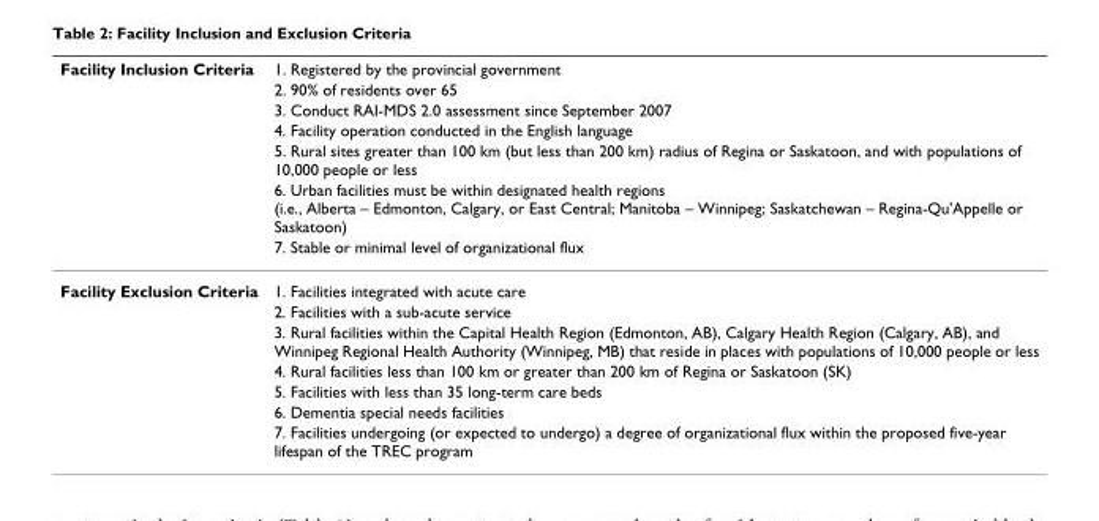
<table><thead><tr><td rowspan="7">Facility Inclusion Criteria</td><td rowspan="7">1. Registered by the provincial government 2. 90% of residents over 65 3. Conduct RAI-MDS 2.0 assessment since September 2007 4. Facility operation conducted in the English language 5. Rural sites greater than 100 km (but less than 200 km) radius of Regina or Saskatoon, and with populations of 10,000 people or less 6. Urban facilities must be within designated health regions (i.e., Alberta – Edmonton, Calgary, or East Central; Manitoba – Winnipeg; Saskatchewan – Regina-Qu&#x27;Appelle or Saskatoon) 7. Stable or minimal level of organizational flux</td></tr><tr></tr><tr></tr><tr></tr><tr></tr><tr></tr><tr></tr></thead><tbody><tr><td rowspan="7">Facility Exclusion Criteria</td><td>1. Facilities integrated with acute care</td></tr><tr><td>2. Facilities with a sub-acute service</td></tr><tr><td>3. Rural facilities within the Capital Health Region (Edmonton, AB), Calgary Health Region (Calgary, AB), and Winnipeg Regional Health Authority (Winnipeg, MB) that reside in places with populations of 10,000 people or less</td></tr><tr><td>4. Rural facilities less than 100 km or greater than 200 km of Regina or Saskatoon (SK)</td></tr><tr><td>5. Facilities with less than 35 long-term care beds</td></tr><tr><td>6. Dementia special needs facilities</td></tr><tr><td>7. Facilities undergoing (or expected to undergo) a degree of organizational flux within the proposed five-year lifespan of the TREC program</td></tr></tbody></table>